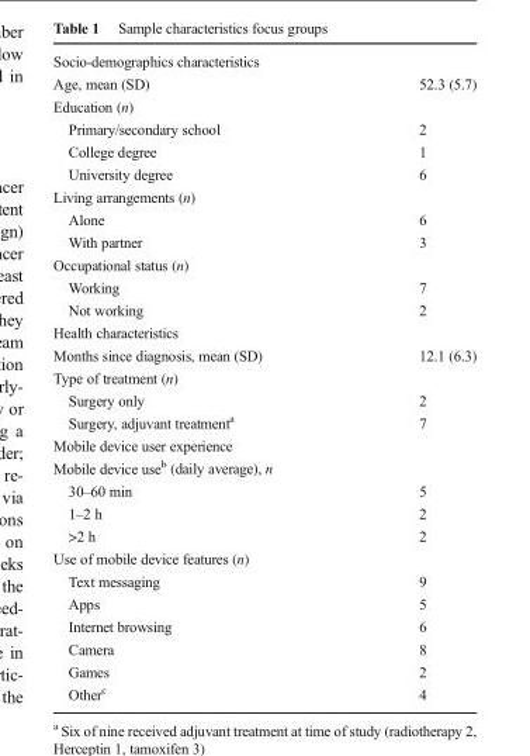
<table><tbody><tr><td colspan="2">Socio-demographics characteristics</td></tr><tr><td>Age, mean (SD)</td><td>52.3 (5.7)</td></tr><tr><td colspan="2">Education (n)</td></tr><tr><td>Primary/secondary school</td><td>2</td></tr><tr><td>College degree</td><td>1</td></tr><tr><td>University degree</td><td>6</td></tr><tr><td colspan="2">Living arrangements (n)</td></tr><tr><td>Alone</td><td>6</td></tr><tr><td>With partner</td><td>3</td></tr><tr><td colspan="2">Occupational status (n)</td></tr><tr><td>Working</td><td>7</td></tr><tr><td>Not working</td><td>2</td></tr><tr><td colspan="2">Health characteristics</td></tr><tr><td>Months since diagnosis, mean (SD)</td><td>12.1 (6.3)</td></tr><tr><td colspan="2">Type of treatment (n)</td></tr><tr><td>Surgery only</td><td>2</td></tr><tr><td>Surgery, adjuvant treatment<sup>a</sup></td><td>7</td></tr><tr><td colspan="2">Mobile device user experience</td></tr><tr><td colspan="2">Mobile device use<sup>b</sup> (daily average), n</td></tr><tr><td>30–60 min</td><td>5</td></tr><tr><td>1–2 h</td><td>2</td></tr><tr><td>&gt;2 h</td><td>2</td></tr><tr><td colspan="2">Use of mobile device features (n)</td></tr><tr><td>Text messaging</td><td>9</td></tr><tr><td>Apps</td><td>5</td></tr><tr><td>Internet browsing</td><td>6</td></tr><tr><td>Camera</td><td>8</td></tr><tr><td>Games</td><td>2</td></tr><tr><td>Other<sup>c</sup></td><td>4</td></tr></tbody></table>